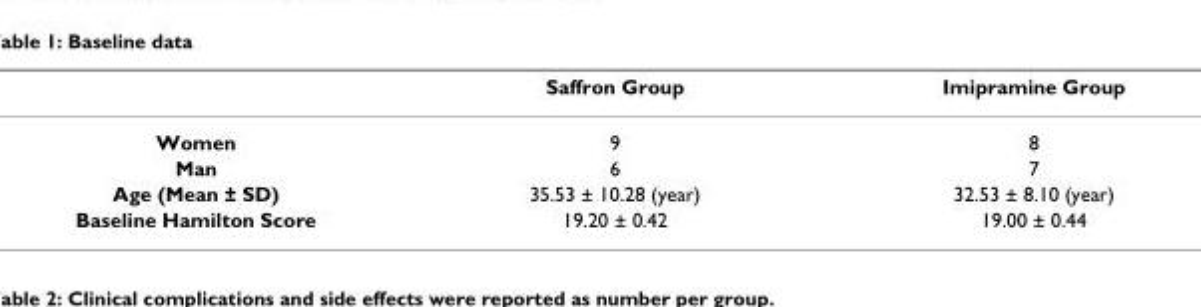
<table><thead><tr><td></td><td>Saffron Group</td><td>Imipramine Group</td></tr></thead><tbody><tr><td>Women</td><td>9</td><td>8</td></tr><tr><td>Man</td><td>6</td><td>7</td></tr><tr><td>Age (Mean ± SD)</td><td>35.53 ± 10.28 (year)</td><td>32.53 ± 8.10 (year)</td></tr><tr><td>Baseline Hamilton Score</td><td>19.20 ± 0.42</td><td>19.00 ± 0.44</td></tr></tbody></table>